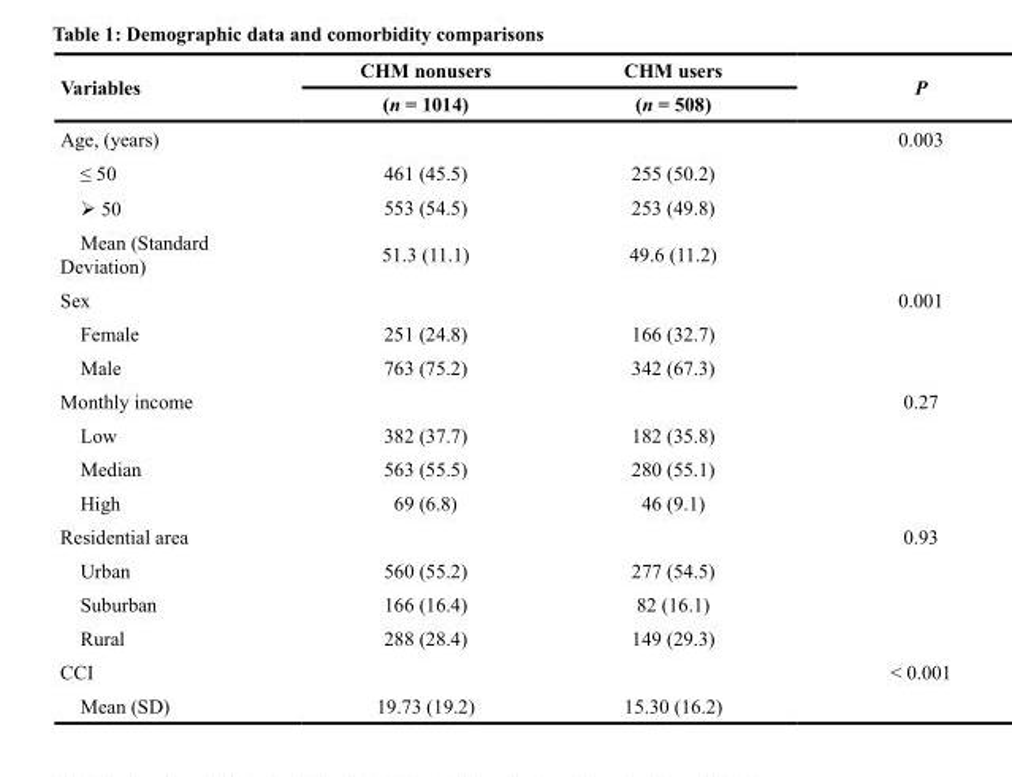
<table><thead><tr><td rowspan="2">Variables</td><td rowspan="2">CHM nonusers (n = 1014)</td><td rowspan="2">CHM users (n = 508)</td><td rowspan="2">P</td></tr><tr></tr></thead><tbody><tr><td>Age, (years)</td><td></td><td></td><td>0.003</td></tr><tr><td>≤ 50</td><td>461 (45.5)</td><td>255 (50.2)</td><td></td></tr><tr><td>➢ 50</td><td>553 (54.5)</td><td>253 (49.8)</td><td></td></tr><tr><td>Mean (Standard Deviation)</td><td>51.3 (11.1)</td><td>49.6 (11.2)</td><td></td></tr><tr><td>Sex</td><td></td><td></td><td>0.001</td></tr><tr><td>Female</td><td>251 (24.8)</td><td>166 (32.7)</td><td></td></tr><tr><td>Male</td><td>763 (75.2)</td><td>342 (67.3)</td><td></td></tr><tr><td>Monthly income</td><td></td><td></td><td>0.27</td></tr><tr><td>Low</td><td>382 (37.7)</td><td>182 (35.8)</td><td></td></tr><tr><td>Median</td><td>563 (55.5)</td><td>280 (55.1)</td><td></td></tr><tr><td>High</td><td>69 (6.8)</td><td>46 (9.1)</td><td></td></tr><tr><td>Residential area</td><td></td><td></td><td>0.93</td></tr><tr><td>Urban</td><td>560 (55.2)</td><td>277 (54.5)</td><td></td></tr><tr><td>Suburban</td><td>166 (16.4)</td><td>82 (16.1)</td><td></td></tr><tr><td>Rural</td><td>288 (28.4)</td><td>149 (29.3)</td><td></td></tr><tr><td>CCI</td><td></td><td></td><td>&lt; 0.001</td></tr><tr><td>Mean (SD)</td><td>19.73 (19.2)</td><td>15.30 (16.2)</td><td></td></tr></tbody></table>